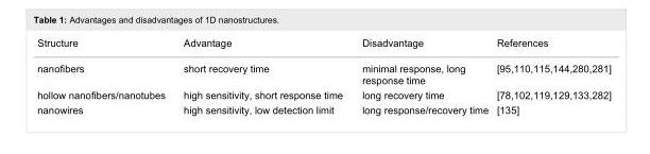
<table><tbody><tr><td>Structure</td><td>Advantage</td><td>Disadvantage</td><td>References</td></tr><tr><td>nanofibers</td><td>short recovery time</td><td>minimal response, long response time</td><td>[95,110,115,144,280–281]</td></tr><tr><td>hollow nanofibers/nanotubes</td><td>high sensitivity, short response time</td><td>long recovery time</td><td>[78,102,119,129,133,282]</td></tr><tr><td>nanowires</td><td>high sensitivity, low detection limit</td><td>long response/recovery time</td><td>[135]</td></tr></tbody></table>